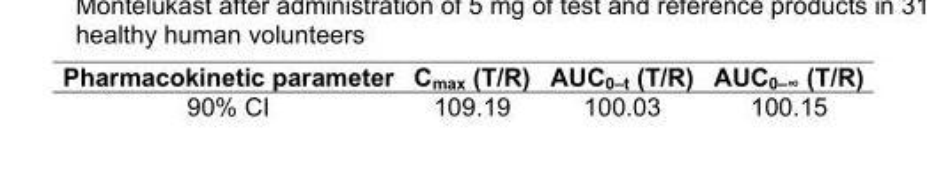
<table><thead><tr><td>Pharmacokinetic parameter</td><td>C<sub>max</sub> (T/R)</td><td>AUC<sub>0–t</sub> (T/R)</td><td>AUC0–∞ (T/R)</td></tr></thead><tbody><tr><td>90% CI</td><td>109.19</td><td>100.03</td><td>100.15</td></tr></tbody></table>